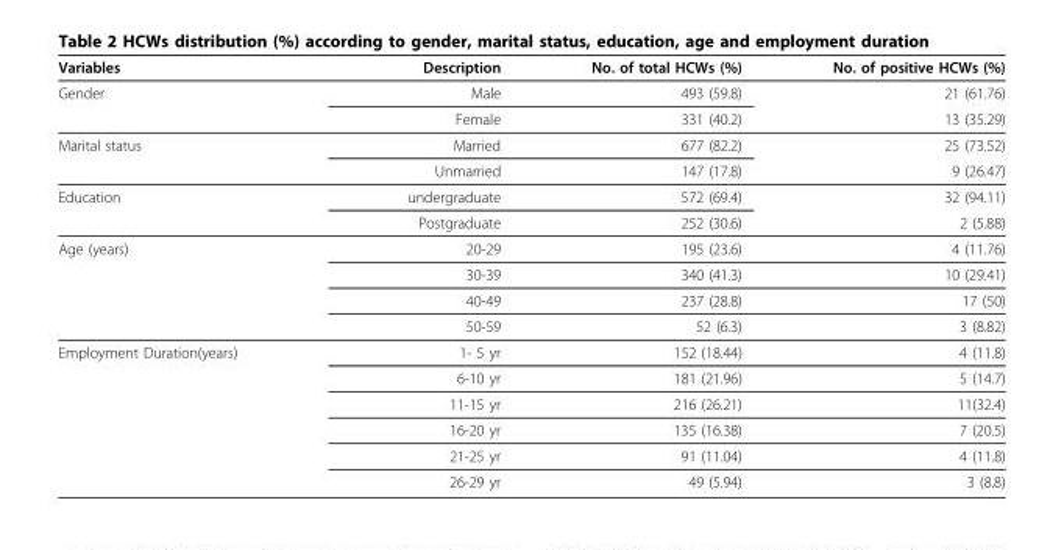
<table><thead><tr><td>Variables</td><td>Description</td><td>No. of total HCWs (%)</td><td>No. of positive HCWs (%)</td></tr></thead><tbody><tr><td rowspan="2">Gender</td><td>Male</td><td>493 (59.8)</td><td>21 (61.76)</td></tr><tr><td>Female</td><td>331 (40.2)</td><td>13 (35.29)</td></tr><tr><td rowspan="2">Marital status</td><td>Married</td><td>677 (82.2)</td><td>25 (73.52)</td></tr><tr><td>Unmarried</td><td>147 (17.8)</td><td>9 (26.47)</td></tr><tr><td rowspan="2">Education</td><td>undergraduate</td><td>572 (69.4)</td><td>32 (94.11)</td></tr><tr><td>Postgraduate</td><td>252 (30.6)</td><td>2 (5.88)</td></tr><tr><td rowspan="4">Age (years)</td><td>20-29</td><td>195 (23.6)</td><td>4 (11.76)</td></tr><tr><td>30-39</td><td>340 (41.3)</td><td>10 (29.41)</td></tr><tr><td>40-49</td><td>237 (28.8)</td><td>17 (50)</td></tr><tr><td>50-59</td><td>52 (6.3)</td><td>3 (8.82)</td></tr><tr><td rowspan="6">Employment Duration(years)</td><td>1- 5 yr</td><td>152 (18.44)</td><td>4 (11.8)</td></tr><tr><td>6-10 yr</td><td>181 (21.96)</td><td>5 (14.7)</td></tr><tr><td>11-15 yr</td><td>216 (26.21)</td><td>11(32.4)</td></tr><tr><td>16-20 yr</td><td>135 (16.38)</td><td>7 (20.5)</td></tr><tr><td>21-25 yr</td><td>91 (11.04)</td><td>4 (11.8)</td></tr><tr><td>26-29 yr</td><td>49 (5.94)</td><td>3 (8.8)</td></tr></tbody></table>